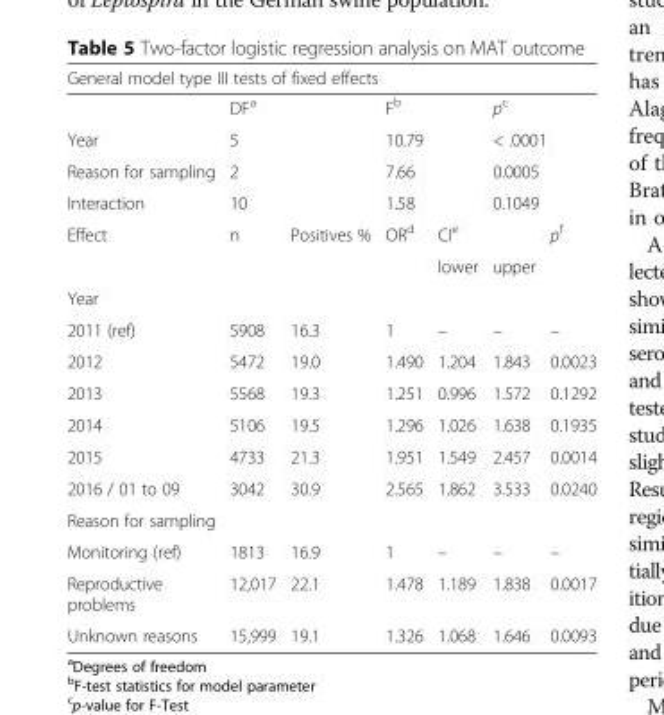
<table><thead><tr><td colspan="7">General model type III tests of fixed effects</td></tr></thead><tbody><tr><td></td><td colspan="2">DF<sup>a</sup></td><td colspan="2">F<sup>b</sup></td><td colspan="2">p<sup>c</sup></td></tr><tr><td>Year</td><td colspan="2">5</td><td colspan="2">10.79</td><td colspan="2">&lt; .0001</td></tr><tr><td>Reason for sampling</td><td colspan="2">2</td><td colspan="2">7.66</td><td colspan="2">0.0005</td></tr><tr><td>Interaction</td><td colspan="2">10</td><td colspan="2">1.58</td><td colspan="2">0.1049</td></tr><tr><td rowspan="2">Effect</td><td rowspan="2">n</td><td rowspan="2">Positives %</td><td rowspan="2">OR<sup>d</sup></td><td colspan="2">CI<sup>e</sup></td><td rowspan="2">p<sup>f</sup></td></tr><tr><td>lower</td><td>upper</td></tr><tr><td colspan="7">Year</td></tr><tr><td>2011 (ref)</td><td>5908</td><td>16.3</td><td>1</td><td>–</td><td>–</td><td>–</td></tr><tr><td>2012</td><td>5472</td><td>19.0</td><td>1.490</td><td>1.204</td><td>1.843</td><td>0.0023</td></tr><tr><td>2013</td><td>5568</td><td>19.3</td><td>1.251</td><td>0.996</td><td>1.572</td><td>0.1292</td></tr><tr><td>2014</td><td>5106</td><td>19.5</td><td>1.296</td><td>1.026</td><td>1.638</td><td>0.1935</td></tr><tr><td>2015</td><td>4733</td><td>21.3</td><td>1.951</td><td>1.549</td><td>2.457</td><td>0.0014</td></tr><tr><td>2016 / 01 to 09</td><td>3042</td><td>30.9</td><td>2.565</td><td>1.862</td><td>3.533</td><td>0.0240</td></tr><tr><td colspan="7">Reason for sampling</td></tr><tr><td>Monitoring (ref)</td><td>1813</td><td>16.9</td><td>1</td><td>–</td><td>–</td><td>–</td></tr><tr><td>Reproductive problems</td><td>12,017</td><td>22.1</td><td>1.478</td><td>1.189</td><td>1.838</td><td>0.0017</td></tr><tr><td>Unknown reasons</td><td>15,999</td><td>19.1</td><td>1.326</td><td>1.068</td><td>1.646</td><td>0.0093</td></tr></tbody></table>